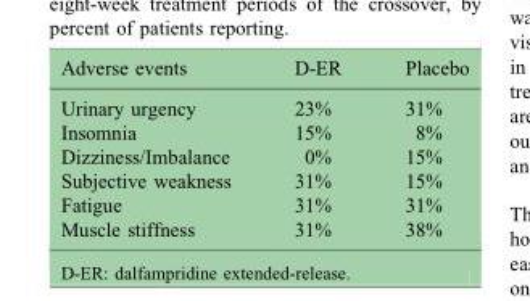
<table><thead><tr><td>Adverse events</td><td>D-ER</td><td>Placebo</td></tr></thead><tbody><tr><td>Urinary urgency</td><td>23%</td><td>31%</td></tr><tr><td>Insomnia</td><td>15%</td><td>8%</td></tr><tr><td>Dizziness/Imbalance</td><td>0%</td><td>15%</td></tr><tr><td>Subjective weakness</td><td>31%</td><td>15%</td></tr><tr><td>Fatigue</td><td>31%</td><td>31%</td></tr><tr><td>Muscle stiffness</td><td>31%</td><td>38%</td></tr></tbody></table>